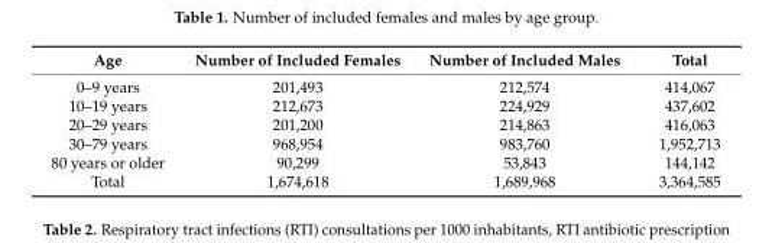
<table><thead><tr><td>Age</td><td>Number of Included Females</td><td>Number of Included Males</td><td>Total</td></tr></thead><tbody><tr><td>0–9 years</td><td>201,493</td><td>212,574</td><td>414,067</td></tr><tr><td>10–19 years</td><td>212,673</td><td>224,929</td><td>437,602</td></tr><tr><td>20–29 years</td><td>201,200</td><td>214,863</td><td>416,063</td></tr><tr><td>30–79 years</td><td>968,954</td><td>983,760</td><td>1,952,713</td></tr><tr><td>80 years or older</td><td>90,299</td><td>53,843</td><td>144,142</td></tr><tr><td>Total</td><td>1,674,618</td><td>1,689,968</td><td>3,364,585</td></tr></tbody></table>